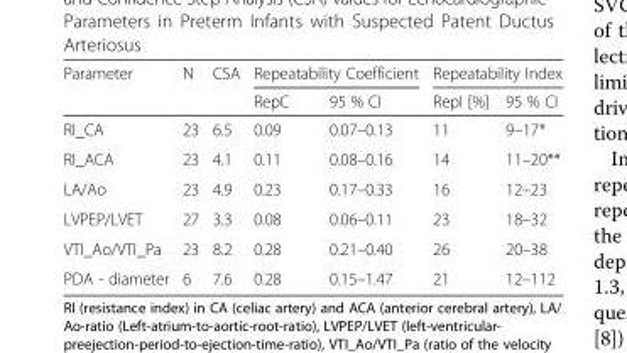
<table><thead><tr><td rowspan="2">Parameter</td><td rowspan="2">N</td><td rowspan="2">CSA</td><td colspan="2">Repeatability Coefficient</td><td colspan="2">Repeatability Index</td></tr><tr><td>RepC</td><td>95 % CI</td><td>RepI [%]</td><td>95 % CI</td></tr></thead><tbody><tr><td>RI_CA</td><td>23</td><td>6.5</td><td>0.09</td><td>0.07–0.13</td><td>11</td><td>9–17*</td></tr><tr><td>RI_ACA</td><td>23</td><td>4.1</td><td>0.11</td><td>0.08–0.16</td><td>14</td><td>11–20**</td></tr><tr><td>LA/Ao</td><td>23</td><td>4.9</td><td>0.23</td><td>0.17–0.33</td><td>16</td><td>12–23</td></tr><tr><td>LVPEP/LVET</td><td>27</td><td>3.3</td><td>0.08</td><td>0.06–0.11</td><td>23</td><td>18–32</td></tr><tr><td>VTI_Ao/VTI_Pa</td><td>23</td><td>8.2</td><td>0.28</td><td>0.21–0.40</td><td>26</td><td>20–38</td></tr><tr><td>PDA - diameter</td><td>6</td><td>7.6</td><td>0.28</td><td>0.15–1.47</td><td>21</td><td>12–112</td></tr></tbody></table>